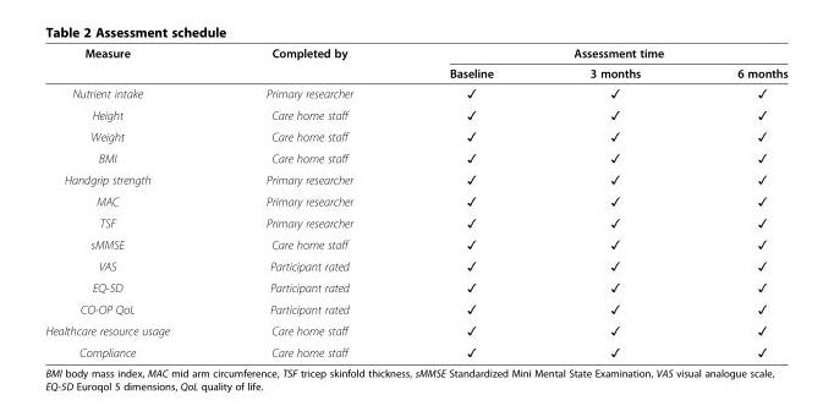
<table><thead><tr><td rowspan="2">Measure</td><td rowspan="2">Completed by</td><td colspan="3">Assessment time</td></tr><tr><td>Baseline</td><td>3 months</td><td>6 months</td></tr></thead><tbody><tr><td>Nutrient intake</td><td>Primary researcher</td><td>✓</td><td>✓</td><td>✓</td></tr><tr><td>Height</td><td>Care home staff</td><td>✓</td><td>✓</td><td>✓</td></tr><tr><td>Weight</td><td>Care home staff</td><td>✓</td><td>✓</td><td>✓</td></tr><tr><td>BMI</td><td>Care home staff</td><td>✓</td><td>✓</td><td>✓</td></tr><tr><td>Handgrip strength</td><td>Primary researcher</td><td>✓</td><td>✓</td><td>✓</td></tr><tr><td>MAC</td><td>Primary researcher</td><td>✓</td><td>✓</td><td>✓</td></tr><tr><td>TSF</td><td>Primary researcher</td><td>✓</td><td>✓</td><td>✓</td></tr><tr><td>sMMSE</td><td>Care home staff</td><td>✓</td><td>✓</td><td>✓</td></tr><tr><td>VAS</td><td>Participant rated</td><td>✓</td><td>✓</td><td>✓</td></tr><tr><td>EQ-5D</td><td>Participant rated</td><td>✓</td><td>✓</td><td>✓</td></tr><tr><td>CO-OP QoL</td><td>Participant rated</td><td>✓</td><td>✓</td><td>✓</td></tr><tr><td>Healthcare resource usage</td><td>Care home staff</td><td>✓</td><td>✓</td><td>✓</td></tr><tr><td>Compliance</td><td>Care home staff</td><td>✓</td><td>✓</td><td>✓</td></tr></tbody></table>